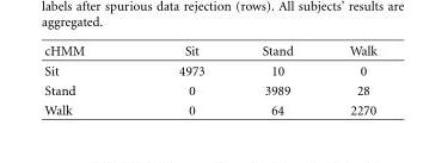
<table><thead><tr><td>cHMM</td><td>Sit</td><td>Stand</td><td>Walk</td></tr></thead><tbody><tr><td>Sit</td><td>4973</td><td>10</td><td>0</td></tr><tr><td>Stand</td><td>0</td><td>3989</td><td>28</td></tr><tr><td>Walk</td><td>0</td><td>64</td><td>2270</td></tr></tbody></table>